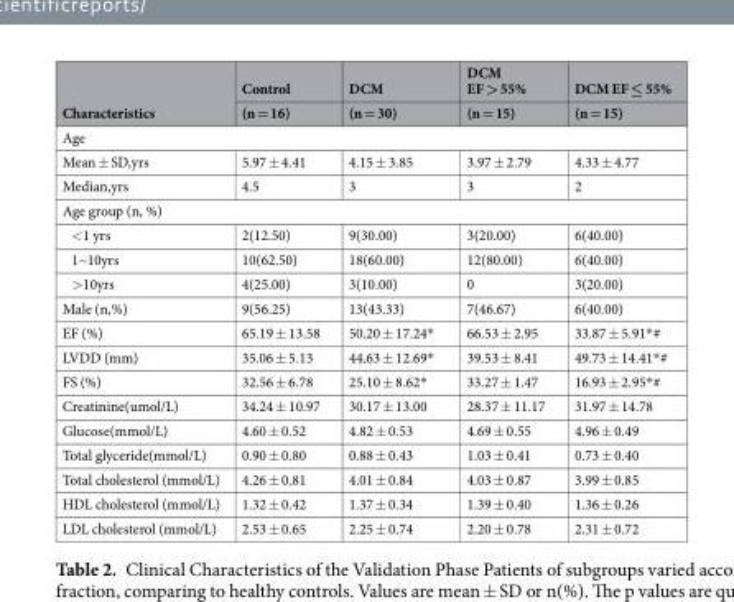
<table><thead><tr><td rowspan="2">Characteristics</td><td rowspan="2">Control (n = 16)</td><td rowspan="2">DCM (n = 30)</td><td rowspan="2">DCM EF &gt; 55% (n = 15)</td><td rowspan="2">DCM EF ≤ 55% (n = 15)</td></tr><tr></tr></thead><tbody><tr><td colspan="5">Age</td></tr><tr><td>Mean ± SD,yrs</td><td>5.97 ± 4.41</td><td>4.15 ± 3.85</td><td>3.97 ± 2.79</td><td>4.33 ± 4.77</td></tr><tr><td>Median,yrs</td><td>4.5</td><td>3</td><td>3</td><td>2</td></tr><tr><td colspan="5">Age group (n, %)</td></tr><tr><td>&lt;1 yrs</td><td>2(12.50)</td><td>9(30.00)</td><td>3(20.00)</td><td>6(40.00)</td></tr><tr><td>1~10yrs</td><td>10(62.50)</td><td>18(60.00)</td><td>12(80.00)</td><td>6(40.00)</td></tr><tr><td>&gt;10yrs</td><td>4(25.00)</td><td>3(10.00)</td><td>0</td><td>3(20.00)</td></tr><tr><td>Male (n,%)</td><td>9(56.25)</td><td>13(43.33)</td><td>7(46.67)</td><td>6(40.00)</td></tr><tr><td>EF (%)</td><td>65.19 ± 13.58</td><td>50.20 ± 17.24*</td><td>66.53 ± 2.95</td><td>33.87 ± 5.91*#</td></tr><tr><td>LVDD (mm)</td><td>35.06 ± 5.13</td><td>44.63 ± 12.69*</td><td>39.53 ± 8.41</td><td>49.73 ± 14.41*#</td></tr><tr><td>FS (%)</td><td>32.56 ± 6.78</td><td>25.10 ± 8.62*</td><td>33.27 ± 1.47</td><td>16.93 ± 2.95*#</td></tr><tr><td>Creatinine(umol/L)</td><td>34.24 ± 10.97</td><td>30.17 ± 13.00</td><td>28.37 ± 11.17</td><td>31.97 ± 14.78</td></tr><tr><td>Glucose(mmol/L)</td><td>4.60 ± 0.52</td><td>4.82 ± 0.53</td><td>4.69 ± 0.55</td><td>4.96 ± 0.49</td></tr><tr><td>Total glyceride(mmol/L)</td><td>0.90 ± 0.80</td><td>0.88 ± 0.43</td><td>1.03 ± 0.41</td><td>0.73 ± 0.40</td></tr><tr><td>Total cholesterol (mmol/L)</td><td>4.26 ± 0.81</td><td>4.01 ± 0.84</td><td>4.03 ± 0.87</td><td>3.99 ± 0.85</td></tr><tr><td>HDL cholesterol (mmol/L)</td><td>1.32 ± 0.42</td><td>1.37 ± 0.34</td><td>1.39 ± 0.40</td><td>1.36 ± 0.26</td></tr><tr><td>LDL cholesterol (mmol/L)</td><td>2.53 ± 0.65</td><td>2.25 ± 0.74</td><td>2.20 ± 0.78</td><td>2.31 ± 0.72</td></tr></tbody></table>